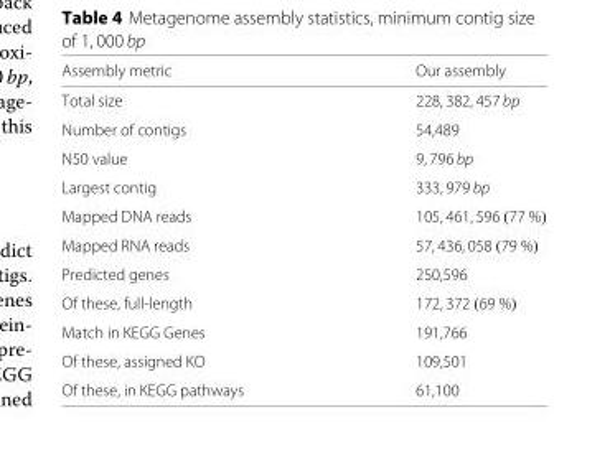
<table><thead><tr><td>Assembly metric</td><td>Our assembly</td></tr></thead><tbody><tr><td>Total size</td><td>228, 382, 457 bp</td></tr><tr><td>Number of contigs</td><td>54,489</td></tr><tr><td>N50 value</td><td>9, 796 bp</td></tr><tr><td>Largest contig</td><td>333, 979 bp</td></tr><tr><td>Mapped DNA reads</td><td>105, 461, 596 (77 %)</td></tr><tr><td>Mapped RNA reads</td><td>57, 436, 058 (79 %)</td></tr><tr><td>Predicted genes</td><td>250,596</td></tr><tr><td>Of these, full-length</td><td>172, 372 (69 %)</td></tr><tr><td>Match in KEGG Genes</td><td>191,766</td></tr><tr><td>Of these, assigned KO</td><td>109,501</td></tr><tr><td>Of these, in KEGG pathways</td><td>61,100</td></tr></tbody></table>